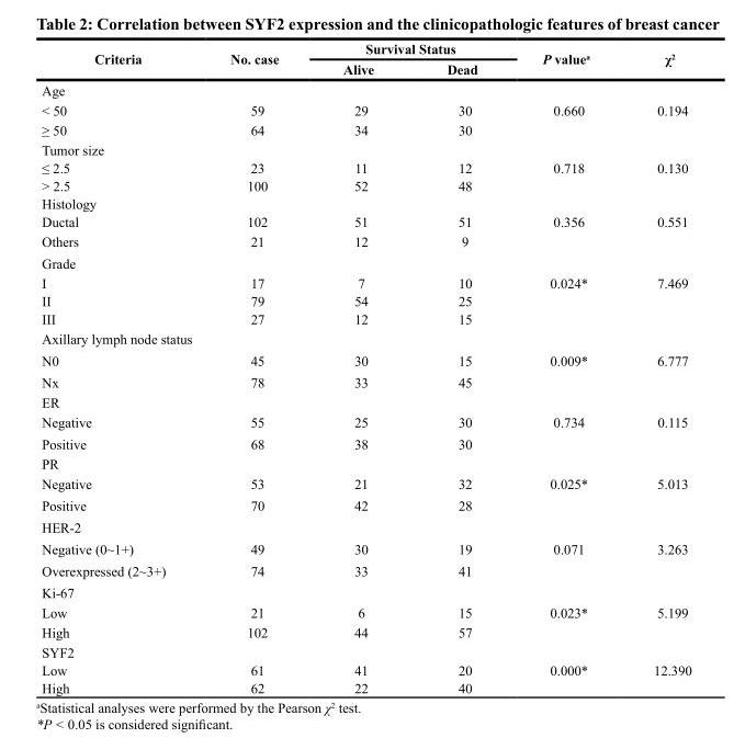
<table><thead><tr><td rowspan="2">Criteria</td><td rowspan="2">No. case</td><td colspan="2">Survival Status</td><td rowspan="2">P value<sup>a</sup></td><td rowspan="2">χ<sup>2</sup></td></tr><tr><td>Alive</td><td>Dead</td></tr></thead><tbody><tr><td colspan="6">Age</td></tr><tr><td>&lt; 50</td><td>59</td><td>29</td><td>30</td><td>0.660</td><td>0.194</td></tr><tr><td>≥ 50</td><td>64</td><td>34</td><td>30</td><td></td><td></td></tr><tr><td colspan="6">Tumor size</td></tr><tr><td>≤ 2.5</td><td>23</td><td>11</td><td>12</td><td>0.718</td><td>0.130</td></tr><tr><td>&gt; 2.5</td><td>100</td><td>52</td><td>48</td><td></td><td></td></tr><tr><td colspan="6">Histology</td></tr><tr><td>Ductal</td><td>102</td><td>51</td><td>51</td><td>0.356</td><td>0.551</td></tr><tr><td>Others</td><td>21</td><td>12</td><td>9</td><td></td><td></td></tr><tr><td colspan="6">Grade</td></tr><tr><td>I</td><td>17</td><td>7</td><td>10</td><td>0.024*</td><td>7.469</td></tr><tr><td>II</td><td>79</td><td>54</td><td>25</td><td></td><td></td></tr><tr><td>III</td><td>27</td><td>12</td><td>15</td><td></td><td></td></tr><tr><td colspan="6">Axillary lymph node status</td></tr><tr><td>N0</td><td>45</td><td>30</td><td>15</td><td>0.009*</td><td>6.777</td></tr><tr><td>Nx</td><td>78</td><td>33</td><td>45</td><td></td><td></td></tr><tr><td colspan="6">ER</td></tr><tr><td>Negative</td><td>55</td><td>25</td><td>30</td><td>0.734</td><td>0.115</td></tr><tr><td>Positive</td><td>68</td><td>38</td><td>30</td><td></td><td></td></tr><tr><td colspan="6">PR</td></tr><tr><td>Negative</td><td>53</td><td>21</td><td>32</td><td>0.025*</td><td>5.013</td></tr><tr><td>Positive</td><td>70</td><td>42</td><td>28</td><td></td><td></td></tr><tr><td colspan="6">HER-2</td></tr><tr><td>Negative (0~1+)</td><td>49</td><td>30</td><td>19</td><td>0.071</td><td>3.263</td></tr><tr><td>Overexpressed (2~3+)</td><td>74</td><td>33</td><td>41</td><td></td><td></td></tr><tr><td colspan="6">Ki-67</td></tr><tr><td>Low</td><td>21</td><td>6</td><td>15</td><td>0.023*</td><td>5.199</td></tr><tr><td>High</td><td>102</td><td>44</td><td>57</td><td></td><td></td></tr><tr><td colspan="6">SYF2</td></tr><tr><td>Low</td><td>61</td><td>41</td><td>20</td><td>0.000*</td><td>12.390</td></tr><tr><td>High</td><td>62</td><td>22</td><td>40</td><td></td><td></td></tr></tbody></table>